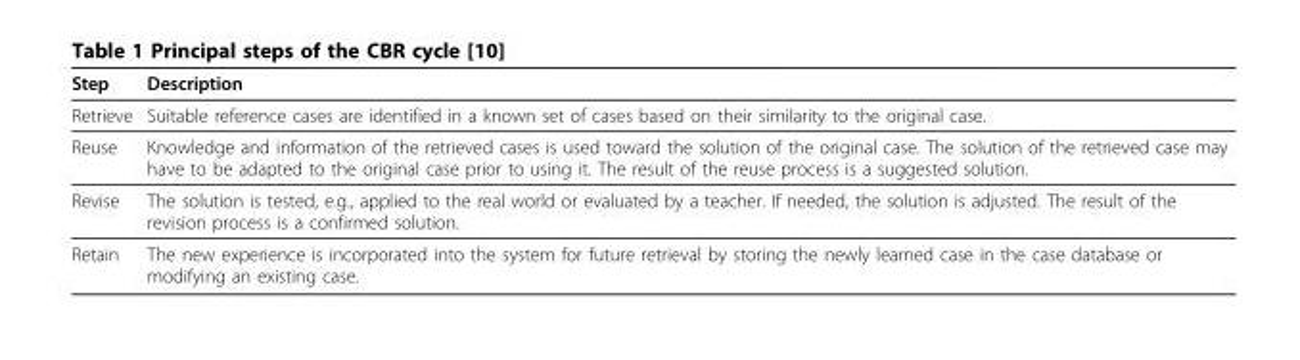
<table><thead><tr><td>Step</td><td>Description</td></tr></thead><tbody><tr><td>Retrieve</td><td>Suitable reference cases are identified in a known set of cases based on their similarity to the original case.</td></tr><tr><td>Reuse</td><td>Knowledge and information of the retrieved cases is used toward the solution of the original case. The solution of the retrieved case may have to be adapted to the original case prior to using it. The result of the reuse process is a suggested solution.</td></tr><tr><td>Revise</td><td>The solution is tested, e.g., applied to the real world or evaluated by a teacher. If needed, the solution is adjusted. The result of the revision process is a confirmed solution.</td></tr><tr><td>Retain</td><td>The new experience is incorporated into the system for future retrieval by storing the newly learned case in the case database or modifying an existing case.</td></tr></tbody></table>